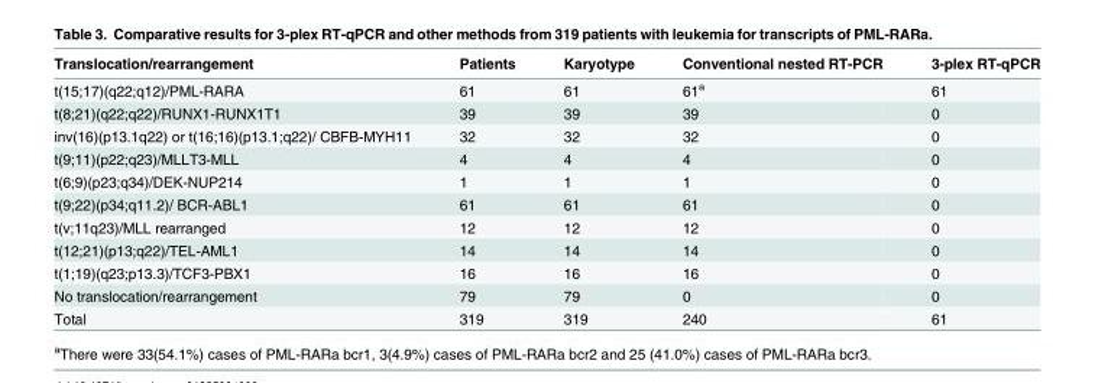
<table><thead><tr><td>Translocation/rearrangement</td><td>Patients</td><td>Karyotype</td><td>Conventional nested RT-PCR</td><td>3-plex RT-qPCR</td></tr></thead><tbody><tr><td>t(15;17)(q22;q12)/PML-RARA</td><td>61</td><td>61</td><td>61<sup>a</sup></td><td>61</td></tr><tr><td>t(8;21)(q22;q22)/RUNX1-RUNX1T1</td><td>39</td><td>39</td><td>39</td><td>0</td></tr><tr><td>inv(16)(p13.1q22) or t(16;16)(p13.1;q22)/ CBFB-MYH11</td><td>32</td><td>32</td><td>32</td><td>0</td></tr><tr><td>t(9;11)(p22;q23)/MLLT3-MLL</td><td>4</td><td>4</td><td>4</td><td>0</td></tr><tr><td>t(6;9)(p23;q34)/DEK-NUP214</td><td>1</td><td>1</td><td>1</td><td>0</td></tr><tr><td>t(9;22)(p34;q11.2)/ BCR-ABL1</td><td>61</td><td>61</td><td>61</td><td>0</td></tr><tr><td>t(v;11q23)/MLL rearranged</td><td>12</td><td>12</td><td>12</td><td>0</td></tr><tr><td>t(12;21)(p13;q22)/TEL-AML1</td><td>14</td><td>14</td><td>14</td><td>0</td></tr><tr><td>t(1;19)(q23;p13.3)/TCF3-PBX1</td><td>16</td><td>16</td><td>16</td><td>0</td></tr><tr><td>No translocation/rearrangement</td><td>79</td><td>79</td><td>0</td><td>0</td></tr><tr><td>Total</td><td>319</td><td>319</td><td>240</td><td>61</td></tr></tbody></table>